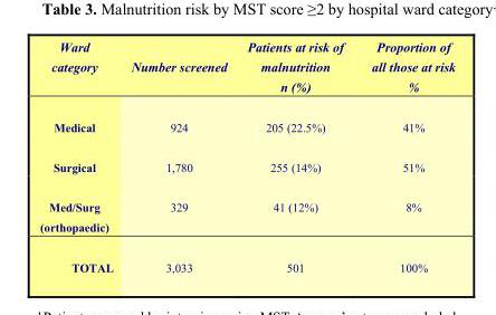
<table><thead><tr><td>Ward category</td><td>Number screened</td><td>Patients at risk of malnutrition n (%)</td><td>Proportion of all those at risk %</td></tr></thead><tbody><tr><td>Medical</td><td>924</td><td>205 (22.5%)</td><td>41%</td></tr><tr><td>Surgical</td><td>1,780</td><td>255 (14%)</td><td>51%</td></tr><tr><td>Med/Surg (orthopaedic)</td><td>329</td><td>41 (12%)</td><td>8%</td></tr><tr><td>TOTAL</td><td>3,033</td><td>501</td><td>100%</td></tr></tbody></table>